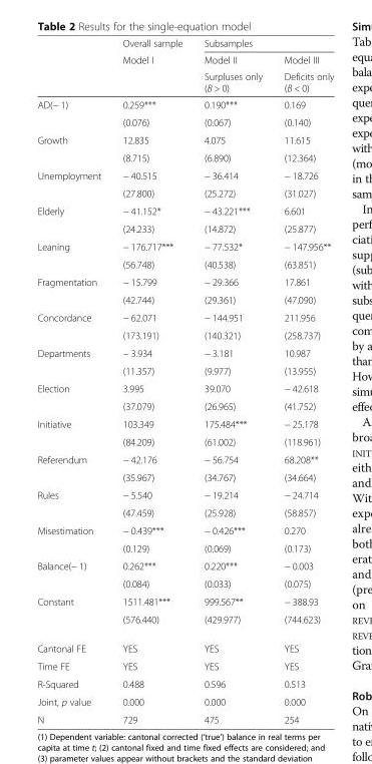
<table><thead><tr><td rowspan="3"></td><td rowspan="3">Overall sample Model I</td><td colspan="2">Subsamples</td></tr><tr><td rowspan="2">Model II Surpluses only (B &gt; 0)</td><td rowspan="2">Model III Deficits only (B &lt; 0)</td></tr><tr></tr></thead><tbody><tr><td rowspan="2">AD(− 1)</td><td>0.259***</td><td>0.190***</td><td>0.169</td></tr><tr><td>(0.076)</td><td>(0.067)</td><td>(0.140)</td></tr><tr><td rowspan="2">Growth</td><td>12.835</td><td>4.075</td><td>11.615</td></tr><tr><td>(8.715)</td><td>(6.890)</td><td>(12.364)</td></tr><tr><td rowspan="2">Unemployment</td><td>− 40.515</td><td>− 36.414</td><td>− 18.726</td></tr><tr><td>(27.800)</td><td>(25.272)</td><td>(31.027)</td></tr><tr><td rowspan="2">Elderly</td><td>− 41.152*</td><td>− 43.221***</td><td>6.601</td></tr><tr><td>(24.233)</td><td>(14.872)</td><td>(25.877)</td></tr><tr><td rowspan="2">Leaning</td><td>− 176.717***</td><td>− 77.532*</td><td>− 147.956**</td></tr><tr><td>(56.748)</td><td>(40.538)</td><td>(63.851)</td></tr><tr><td rowspan="2">Fragmentation</td><td>− 15.799</td><td>− 29.366</td><td>17.861</td></tr><tr><td>(42.744)</td><td>(29.361)</td><td>(47.090)</td></tr><tr><td rowspan="2">Concordance</td><td>− 62.071</td><td>− 144.951</td><td>211.956</td></tr><tr><td>(173.191)</td><td>(140.321)</td><td>(258.737)</td></tr><tr><td rowspan="2">Departments</td><td>− 3.934</td><td>− 3.181</td><td>10.987</td></tr><tr><td>(11.357)</td><td>(9.977)</td><td>(13.955)</td></tr><tr><td rowspan="2">Election</td><td>3.995</td><td>39.070</td><td>− 42.618</td></tr><tr><td>(37.079)</td><td>(26.965)</td><td>(41.752)</td></tr><tr><td rowspan="2">Initiative</td><td>103.349</td><td>175.484***</td><td>− 25.178</td></tr><tr><td>(84.209)</td><td>(61.002)</td><td>(118.961)</td></tr><tr><td rowspan="2">Referendum</td><td>− 42.176</td><td>− 56.754</td><td>68.208**</td></tr><tr><td>(35.967)</td><td>(34.767)</td><td>(34.664)</td></tr><tr><td rowspan="2">Rules</td><td>− 5.540</td><td>− 19.214</td><td>− 24.714</td></tr><tr><td>(47.459)</td><td>(25.928)</td><td>(58.857)</td></tr><tr><td rowspan="2">Misestimation</td><td>− 0.439***</td><td>− 0.426***</td><td>0.270</td></tr><tr><td>(0.129)</td><td>(0.069)</td><td>(0.173)</td></tr><tr><td rowspan="2">Balance(− 1)</td><td>0.262***</td><td>0.220***</td><td>− 0.003</td></tr><tr><td>(0.084)</td><td>(0.033)</td><td>(0.075)</td></tr><tr><td rowspan="2">Constant</td><td>1511.481***</td><td>999.567**</td><td>− 388.93</td></tr><tr><td>(576.440)</td><td>(429.977)</td><td>(744.623)</td></tr><tr><td>Cantonal FE</td><td>YES</td><td>YES</td><td>YES</td></tr><tr><td>Time FE</td><td>YES</td><td>YES</td><td>YES</td></tr><tr><td>R-Squared</td><td>0.488</td><td>0.596</td><td>0.513</td></tr><tr><td>Joint, p value</td><td>0.000</td><td>0.000</td><td>0.000</td></tr><tr><td>N</td><td>729</td><td>475</td><td>254</td></tr></tbody></table>